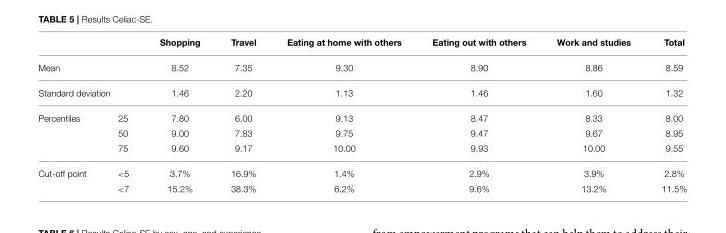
<table><thead><tr><td></td><td></td><td>Shopping</td><td>Travel</td><td>Eating at home with others</td><td>Eating out with others</td><td>Work and studies</td><td>Total</td></tr></thead><tbody><tr><td colspan="2">Mean</td><td>8.52</td><td>7.35</td><td>9.30</td><td>8.90</td><td>8.86</td><td>8.59</td></tr><tr><td colspan="2">Standard deviation</td><td>1.46</td><td>2.20</td><td>1.13</td><td>1.46</td><td>1.60</td><td>1.32</td></tr><tr><td rowspan="3">Percentiles</td><td>25</td><td>7.80</td><td>6.00</td><td>9.13</td><td>8.47</td><td>8.33</td><td>8.00</td></tr><tr><td>50</td><td>9.00</td><td>7.83</td><td>9.75</td><td>9.47</td><td>9.67</td><td>8.95</td></tr><tr><td>75</td><td>9.60</td><td>9.17</td><td>10.00</td><td>9.93</td><td>10.00</td><td>9.55</td></tr><tr><td rowspan="2">Cut-off point</td><td>&lt;5</td><td>3.7%</td><td>16.9%</td><td>1.4%</td><td>2.9%</td><td>3.9%</td><td>2.8%</td></tr><tr><td>&lt;7</td><td>15.2%</td><td>38.3%</td><td>6.2%</td><td>9.6%</td><td>13.2%</td><td>11.5%</td></tr></tbody></table>